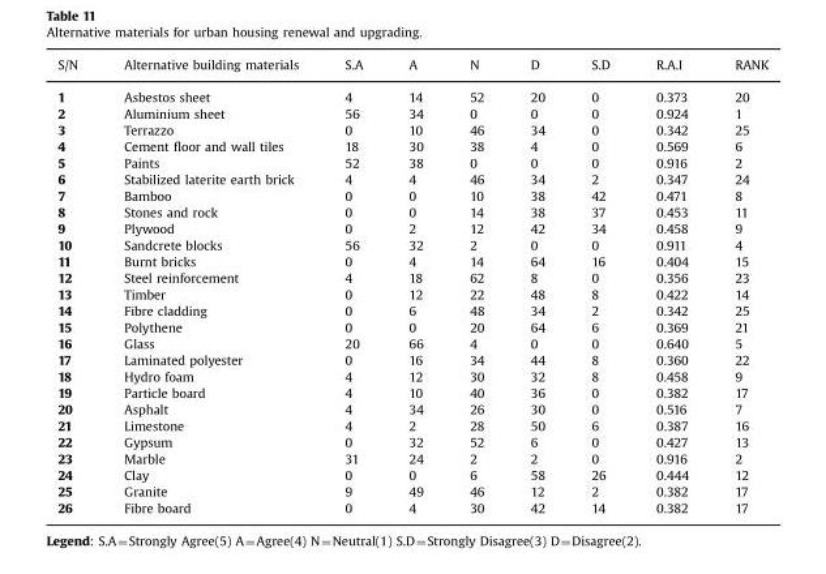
<table><thead><tr><td>S/N</td><td>Alternative building materials</td><td>S.A</td><td>A</td><td>N</td><td>D</td><td>S.D</td><td>R.A.I</td><td>RANK</td></tr></thead><tbody><tr><td>1</td><td>Asbestos sheet</td><td>4</td><td>14</td><td>52</td><td>20</td><td>0</td><td>0.373</td><td>20</td></tr><tr><td>2</td><td>Aluminium sheet</td><td>56</td><td>34</td><td>0</td><td>0</td><td>0</td><td>0.924</td><td>1</td></tr><tr><td>3</td><td>Terrazzo</td><td>0</td><td>10</td><td>46</td><td>34</td><td>0</td><td>0.342</td><td>25</td></tr><tr><td>4</td><td>Cement floor and wall tiles</td><td>18</td><td>30</td><td>38</td><td>4</td><td>0</td><td>0.569</td><td>6</td></tr><tr><td>5</td><td>Paints</td><td>52</td><td>38</td><td>0</td><td>0</td><td>0</td><td>0.916</td><td>2</td></tr><tr><td>6</td><td>Stabilized laterite earth brick</td><td>4</td><td>4</td><td>46</td><td>34</td><td>2</td><td>0.347</td><td>24</td></tr><tr><td>7</td><td>Bamboo</td><td>0</td><td>0</td><td>10</td><td>38</td><td>42</td><td>0.471</td><td>8</td></tr><tr><td>8</td><td>Stones and rock</td><td>0</td><td>0</td><td>14</td><td>38</td><td>37</td><td>0.453</td><td>11</td></tr><tr><td>9</td><td>Plywood</td><td>0</td><td>2</td><td>12</td><td>42</td><td>34</td><td>0.458</td><td>9</td></tr><tr><td>10</td><td>Sandcrete blocks</td><td>56</td><td>32</td><td>2</td><td>0</td><td>0</td><td>0.911</td><td>4</td></tr><tr><td>11</td><td>Burnt bricks</td><td>0</td><td>4</td><td>14</td><td>64</td><td>16</td><td>0.404</td><td>15</td></tr><tr><td>12</td><td>Steel reinforcement</td><td>4</td><td>18</td><td>62</td><td>8</td><td>0</td><td>0.356</td><td>23</td></tr><tr><td>13</td><td>Timber</td><td>0</td><td>12</td><td>22</td><td>48</td><td>8</td><td>0.422</td><td>14</td></tr><tr><td>14</td><td>Fibre cladding</td><td>0</td><td>6</td><td>48</td><td>34</td><td>2</td><td>0.342</td><td>25</td></tr><tr><td>15</td><td>Polythene</td><td>0</td><td>0</td><td>20</td><td>64</td><td>6</td><td>0.369</td><td>21</td></tr><tr><td>16</td><td>Glass</td><td>20</td><td>66</td><td>4</td><td>0</td><td>0</td><td>0.640</td><td>5</td></tr><tr><td>17</td><td>Laminated polyester</td><td>0</td><td>16</td><td>34</td><td>44</td><td>8</td><td>0.360</td><td>22</td></tr><tr><td>18</td><td>Hydro foam</td><td>4</td><td>12</td><td>30</td><td>32</td><td>8</td><td>0.458</td><td>9</td></tr><tr><td>19</td><td>Particle board</td><td>4</td><td>10</td><td>40</td><td>36</td><td>0</td><td>0.382</td><td>17</td></tr><tr><td>20</td><td>Asphalt</td><td>4</td><td>34</td><td>26</td><td>30</td><td>0</td><td>0.516</td><td>7</td></tr><tr><td>21</td><td>Limestone</td><td>4</td><td>2</td><td>28</td><td>50</td><td>6</td><td>0.387</td><td>16</td></tr><tr><td>22</td><td>Gypsum</td><td>0</td><td>32</td><td>52</td><td>6</td><td>0</td><td>0.427</td><td>13</td></tr><tr><td>23</td><td>Marble</td><td>31</td><td>24</td><td>2</td><td>2</td><td>0</td><td>0.916</td><td>2</td></tr><tr><td>24</td><td>Clay</td><td>0</td><td>0</td><td>6</td><td>58</td><td>26</td><td>0.444</td><td>12</td></tr><tr><td>25</td><td>Granite</td><td>9</td><td>49</td><td>46</td><td>12</td><td>2</td><td>0.382</td><td>17</td></tr><tr><td>26</td><td>Fibre board</td><td>0</td><td>4</td><td>30</td><td>42</td><td>14</td><td>0.382</td><td>17</td></tr></tbody></table>